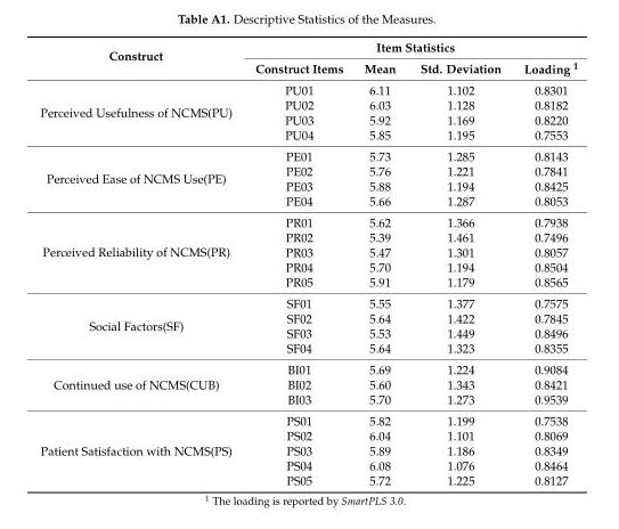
<table><thead><tr><td rowspan="2">Construct</td><td colspan="4">Item Statistics</td></tr><tr><td>Construct Items</td><td>Mean</td><td>Std. Deviation</td><td>Loading <sup>1</sup></td></tr></thead><tbody><tr><td rowspan="4">Perceived Usefulness of NCMS(PU)</td><td>PU01</td><td>6.11</td><td>1.102</td><td>0.8301</td></tr><tr><td>PU02</td><td>6.03</td><td>1.128</td><td>0.8182</td></tr><tr><td>PU03</td><td>5.92</td><td>1.169</td><td>0.8220</td></tr><tr><td>PU04</td><td>5.85</td><td>1.195</td><td>0.7553</td></tr><tr><td rowspan="4">Perceived Ease of NCMS Use(PE)</td><td>PE01</td><td>5.73</td><td>1.285</td><td>0.8143</td></tr><tr><td>PE02</td><td>5.76</td><td>1.221</td><td>0.7841</td></tr><tr><td>PE03</td><td>5.88</td><td>1.194</td><td>0.8425</td></tr><tr><td>PE04</td><td>5.66</td><td>1.287</td><td>0.8053</td></tr><tr><td rowspan="5">Perceived Reliability of NCMS(PR)</td><td>PR01</td><td>5.62</td><td>1.366</td><td>0.7938</td></tr><tr><td>PR02</td><td>5.39</td><td>1.461</td><td>0.7496</td></tr><tr><td>PR03</td><td>5.47</td><td>1.301</td><td>0.8057</td></tr><tr><td>PR04</td><td>5.70</td><td>1.194</td><td>0.8504</td></tr><tr><td>PR05</td><td>5.91</td><td>1.179</td><td>0.8565</td></tr><tr><td rowspan="4">Social Factors(SF)</td><td>SF01</td><td>5.55</td><td>1.377</td><td>0.7575</td></tr><tr><td>SF02</td><td>5.64</td><td>1.422</td><td>0.7845</td></tr><tr><td>SF03</td><td>5.53</td><td>1.449</td><td>0.8496</td></tr><tr><td>SF04</td><td>5.64</td><td>1.323</td><td>0.8355</td></tr><tr><td rowspan="3">Continued use of NCMS(CUB)</td><td>BI01</td><td>5.69</td><td>1.224</td><td>0.9084</td></tr><tr><td>BI02</td><td>5.60</td><td>1.343</td><td>0.8421</td></tr><tr><td>BI03</td><td>5.70</td><td>1.273</td><td>0.9539</td></tr><tr><td rowspan="5">Patient Satisfaction with NCMS(PS)</td><td>PS01</td><td>5.82</td><td>1.199</td><td>0.7538</td></tr><tr><td>PS02</td><td>6.04</td><td>1.101</td><td>0.8069</td></tr><tr><td>PS03</td><td>5.89</td><td>1.186</td><td>0.8349</td></tr><tr><td>PS04</td><td>6.08</td><td>1.076</td><td>0.8464</td></tr><tr><td>PS05</td><td>5.72</td><td>1.225</td><td>0.8127</td></tr></tbody></table>